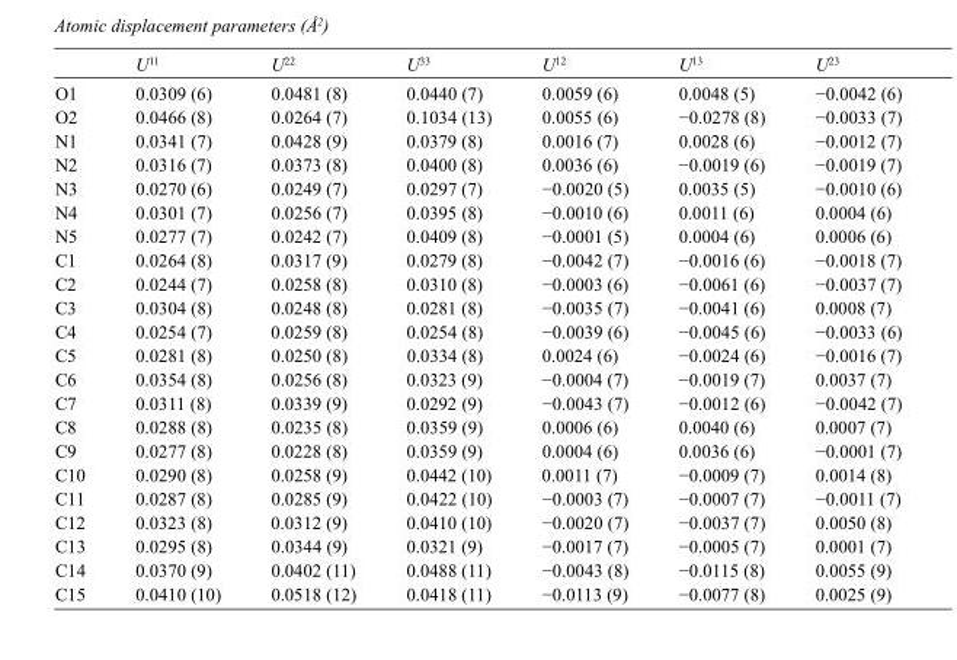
<table><thead><tr><td></td><td>U<sup>11</sup></td><td>U<sup>22</sup></td><td>U<sup>33</sup></td><td>U<sup>12</sup></td><td>U<sup>13</sup></td><td>U<sup>23</sup></td></tr></thead><tbody><tr><td>O1</td><td>0.0309 (6)</td><td>0.0481 (8)</td><td>0.0440 (7)</td><td>0.0059 (6)</td><td>0.0048 (5)</td><td>−0.0042 (6)</td></tr><tr><td>O2</td><td>0.0466 (8)</td><td>0.0264 (7)</td><td>0.1034 (13)</td><td>0.0055 (6)</td><td>−0.0278 (8)</td><td>−0.0033 (7)</td></tr><tr><td>N1</td><td>0.0341 (7)</td><td>0.0428 (9)</td><td>0.0379 (8)</td><td>0.0016 (7)</td><td>0.0028 (6)</td><td>−0.0012 (7)</td></tr><tr><td>N2</td><td>0.0316 (7)</td><td>0.0373 (8)</td><td>0.0400 (8)</td><td>0.0036 (6)</td><td>−0.0019 (6)</td><td>−0.0019 (7)</td></tr><tr><td>N3</td><td>0.0270 (6)</td><td>0.0249 (7)</td><td>0.0297 (7)</td><td>−0.0020 (5)</td><td>0.0035 (5)</td><td>−0.0010 (6)</td></tr><tr><td>N4</td><td>0.0301 (7)</td><td>0.0256 (7)</td><td>0.0395 (8)</td><td>−0.0010 (6)</td><td>0.0011 (6)</td><td>0.0004 (6)</td></tr><tr><td>N5</td><td>0.0277 (7)</td><td>0.0242 (7)</td><td>0.0409 (8)</td><td>−0.0001 (5)</td><td>0.0004 (6)</td><td>0.0006 (6)</td></tr><tr><td>C1</td><td>0.0264 (8)</td><td>0.0317 (9)</td><td>0.0279 (8)</td><td>−0.0042 (7)</td><td>−0.0016 (6)</td><td>−0.0018 (7)</td></tr><tr><td>C2</td><td>0.0244 (7)</td><td>0.0258 (8)</td><td>0.0310 (8)</td><td>−0.0003 (6)</td><td>−0.0061 (6)</td><td>−0.0037 (7)</td></tr><tr><td>C3</td><td>0.0304 (8)</td><td>0.0248 (8)</td><td>0.0281 (8)</td><td>−0.0035 (7)</td><td>−0.0041 (6)</td><td>0.0008 (7)</td></tr><tr><td>C4</td><td>0.0254 (7)</td><td>0.0259 (8)</td><td>0.0254 (8)</td><td>−0.0039 (6)</td><td>−0.0045 (6)</td><td>−0.0033 (6)</td></tr><tr><td>C5</td><td>0.0281 (8)</td><td>0.0250 (8)</td><td>0.0334 (8)</td><td>0.0024 (6)</td><td>−0.0024 (6)</td><td>−0.0016 (7)</td></tr><tr><td>C6</td><td>0.0354 (8)</td><td>0.0256 (8)</td><td>0.0323 (9)</td><td>−0.0004 (7)</td><td>−0.0019 (7)</td><td>0.0037 (7)</td></tr><tr><td>C7</td><td>0.0311 (8)</td><td>0.0339 (9)</td><td>0.0292 (9)</td><td>−0.0043 (7)</td><td>−0.0012 (6)</td><td>−0.0042 (7)</td></tr><tr><td>C8</td><td>0.0288 (8)</td><td>0.0235 (8)</td><td>0.0359 (9)</td><td>0.0006 (6)</td><td>0.0040 (6)</td><td>0.0007 (7)</td></tr><tr><td>C9</td><td>0.0277 (8)</td><td>0.0228 (8)</td><td>0.0359 (9)</td><td>0.0004 (6)</td><td>0.0036 (6)</td><td>−0.0001 (7)</td></tr><tr><td>C10</td><td>0.0290 (8)</td><td>0.0258 (9)</td><td>0.0442 (10)</td><td>0.0011 (7)</td><td>−0.0009 (7)</td><td>0.0014 (8)</td></tr><tr><td>C11</td><td>0.0287 (8)</td><td>0.0285 (9)</td><td>0.0422 (10)</td><td>−0.0003 (7)</td><td>−0.0007 (7)</td><td>−0.0011 (7)</td></tr><tr><td>C12</td><td>0.0323 (8)</td><td>0.0312 (9)</td><td>0.0410 (10)</td><td>−0.0020 (7)</td><td>−0.0037 (7)</td><td>0.0050 (8)</td></tr><tr><td>C13</td><td>0.0295 (8)</td><td>0.0344 (9)</td><td>0.0321 (9)</td><td>−0.0017 (7)</td><td>−0.0005 (7)</td><td>0.0001 (7)</td></tr><tr><td>C14</td><td>0.0370 (9)</td><td>0.0402 (11)</td><td>0.0488 (11)</td><td>−0.0043 (8)</td><td>−0.0115 (8)</td><td>0.0055 (9)</td></tr><tr><td>C15</td><td>0.0410 (10)</td><td>0.0518 (12)</td><td>0.0418 (11)</td><td>−0.0113 (9)</td><td>−0.0077 (8)</td><td>0.0025 (9)</td></tr></tbody></table>